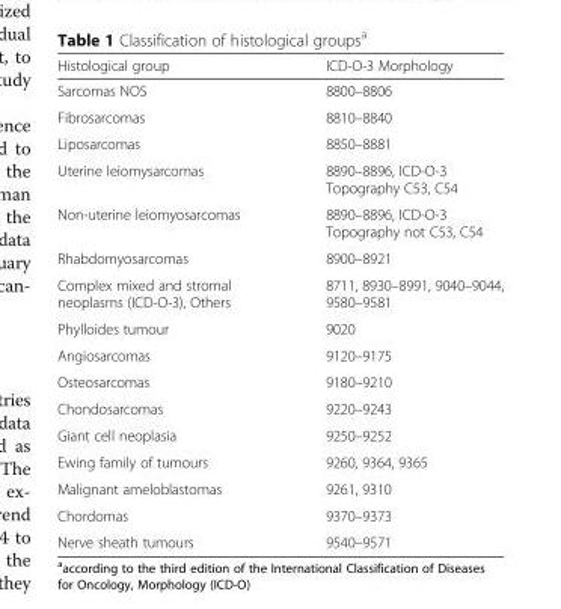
<table><thead><tr><td>Histological group</td><td>ICD-O-3 Morphology</td></tr></thead><tbody><tr><td>Sarcomas NOS</td><td>8800–8806</td></tr><tr><td>Fibrosarcomas</td><td>8810–8840</td></tr><tr><td>Liposarcomas</td><td>8850–8881</td></tr><tr><td>Uterine leiomysarcomas</td><td>8890–8896, ICD-O-3 Topography C53, C54</td></tr><tr><td>Non-uterine leiomyosarcomas</td><td>8890–8896, ICD-O-3 Topography not C53, C54</td></tr><tr><td>Rhabdomyosarcomas</td><td>8900–8921</td></tr><tr><td>Complex mixed and stromal neoplasms (ICD-O-3), Others</td><td>8711, 8930–8991, 9040–9044, 9580–9581</td></tr><tr><td>Phylloides tumour</td><td>9020</td></tr><tr><td>Angiosarcomas</td><td>9120–9175</td></tr><tr><td>Osteosarcomas</td><td>9180–9210</td></tr><tr><td>Chondosarcomas</td><td>9220–9243</td></tr><tr><td>Giant cell neoplasia</td><td>9250–9252</td></tr><tr><td>Ewing family of tumours</td><td>9260, 9364, 9365</td></tr><tr><td>Malignant ameloblastomas</td><td>9261, 9310</td></tr><tr><td>Chordomas</td><td>9370–9373</td></tr><tr><td>Nerve sheath tumours</td><td>9540–9571</td></tr></tbody></table>